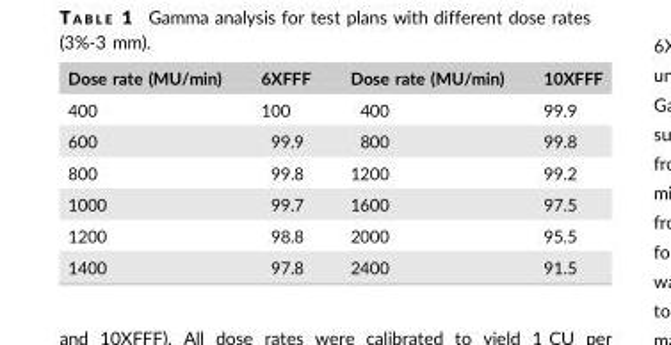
<table><thead><tr><td>Dose rate (MU/min)</td><td>6XFFF</td><td>Dose rate (MU/min)</td><td>10XFFF</td></tr></thead><tbody><tr><td>400</td><td>100</td><td>400</td><td>99.9</td></tr><tr><td>600</td><td>99.9</td><td>800</td><td>99.8</td></tr><tr><td>800</td><td>99.8</td><td>1200</td><td>99.2</td></tr><tr><td>1000</td><td>99.7</td><td>1600</td><td>97.5</td></tr><tr><td>1200</td><td>98.8</td><td>2000</td><td>95.5</td></tr><tr><td>1400</td><td>97.8</td><td>2400</td><td>91.5</td></tr></tbody></table>